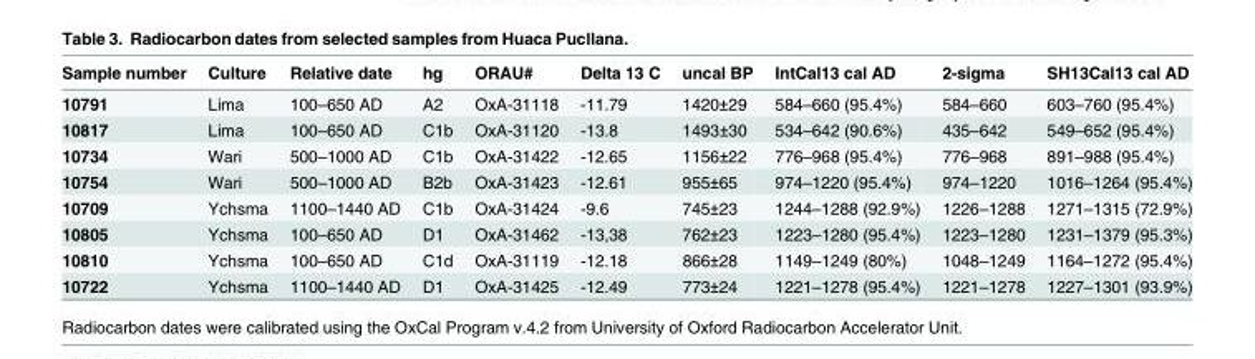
<table><thead><tr><td>Sample number</td><td>Culture</td><td>Relative date</td><td>hg</td><td>ORAU#</td><td>Delta 13 C</td><td>uncal BP</td><td>IntCal13 cal AD</td><td>2-sigma</td><td>SH13Cal13 cal AD</td></tr></thead><tbody><tr><td>10791</td><td>Lima</td><td>100–650 AD</td><td>A2</td><td>OxA-31118</td><td>-11.79</td><td>1420±29</td><td>584–660 (95.4%)</td><td>584–660</td><td>603–760 (95.4%)</td></tr><tr><td>10817</td><td>Lima</td><td>100–650 AD</td><td>C1b</td><td>OxA-31120</td><td>-13.8</td><td>1493±30</td><td>534–642 (90.6%)</td><td>435–642</td><td>549–652 (95.4%)</td></tr><tr><td>10734</td><td>Wari</td><td>500–1000 AD</td><td>C1b</td><td>OxA-31422</td><td>-12.65</td><td>1156±22</td><td>776–968 (95.4%)</td><td>776–968</td><td>891–988 (95.4%)</td></tr><tr><td>10754</td><td>Wari</td><td>500–1000 AD</td><td>B2b</td><td>OxA-31423</td><td>-12.61</td><td>955±65</td><td>974–1220 (95.4%)</td><td>974–1220</td><td>1016–1264 (95.4%)</td></tr><tr><td>10709</td><td>Ychsma</td><td>1100–1440 AD</td><td>C1b</td><td>OxA-31424</td><td>-9.6</td><td>745±23</td><td>1244–1288 (92.9%)</td><td>1226–1288</td><td>1271–1315 (72.9%)</td></tr><tr><td>10805</td><td>Ychsma</td><td>100–650 AD</td><td>D1</td><td>OxA-31462</td><td>-13,38</td><td>762±23</td><td>1223–1280 (95.4%)</td><td>1223–1280</td><td>1231–1379 (95.3%)</td></tr><tr><td>10810</td><td>Ychsma</td><td>100–650 AD</td><td>C1d</td><td>OxA-31119</td><td>-12.18</td><td>866±28</td><td>1149–1249 (80%)</td><td>1048–1249</td><td>1164–1272 (95.4%)</td></tr><tr><td>10722</td><td>Ychsma</td><td>1100–1440 AD</td><td>D1</td><td>OxA-31425</td><td>-12.49</td><td>773±24</td><td>1221–1278 (95.4%)</td><td>1221–1278</td><td>1227–1301 (93.9%)</td></tr></tbody></table>